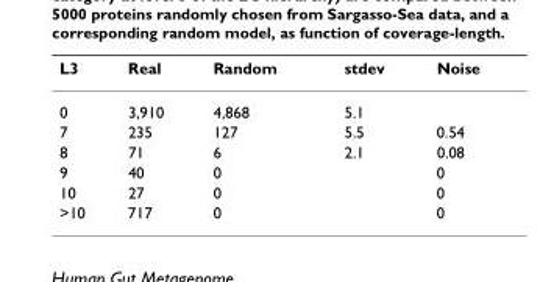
<table><thead><tr><td>L3</td><td>Real</td><td>Random</td><td>stdev</td><td>Noise</td></tr></thead><tbody><tr><td>0</td><td>3,910</td><td>4,868</td><td>5.1</td><td></td></tr><tr><td>7</td><td>235</td><td>127</td><td>5.5</td><td>0.54</td></tr><tr><td>8</td><td>71</td><td>6</td><td>2.1</td><td>0.08</td></tr><tr><td>9</td><td>40</td><td>0</td><td></td><td>0</td></tr><tr><td>10</td><td>27</td><td>0</td><td></td><td>0</td></tr><tr><td>&gt;10</td><td>717</td><td>0</td><td></td><td>0</td></tr></tbody></table>